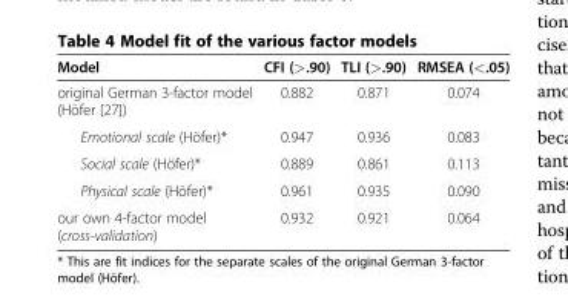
<table><thead><tr><td>Model</td><td>CFI (&gt;.90)</td><td>TLI (&gt;.90)</td><td>RMSEA (&lt;.05)</td></tr></thead><tbody><tr><td>original German 3-factor model (Höfer [27])</td><td>0.882</td><td>0.871</td><td>0.074</td></tr><tr><td>Emotional scale (Höfer)*</td><td>0.947</td><td>0.936</td><td>0.083</td></tr><tr><td>Social scale (Höfer)*</td><td>0.889</td><td>0.861</td><td>0.113</td></tr><tr><td>Physical scale (Höfer)*</td><td>0.961</td><td>0.935</td><td>0.090</td></tr><tr><td>our own 4-factor model (cross-validation)</td><td>0.932</td><td>0.921</td><td>0.064</td></tr></tbody></table>